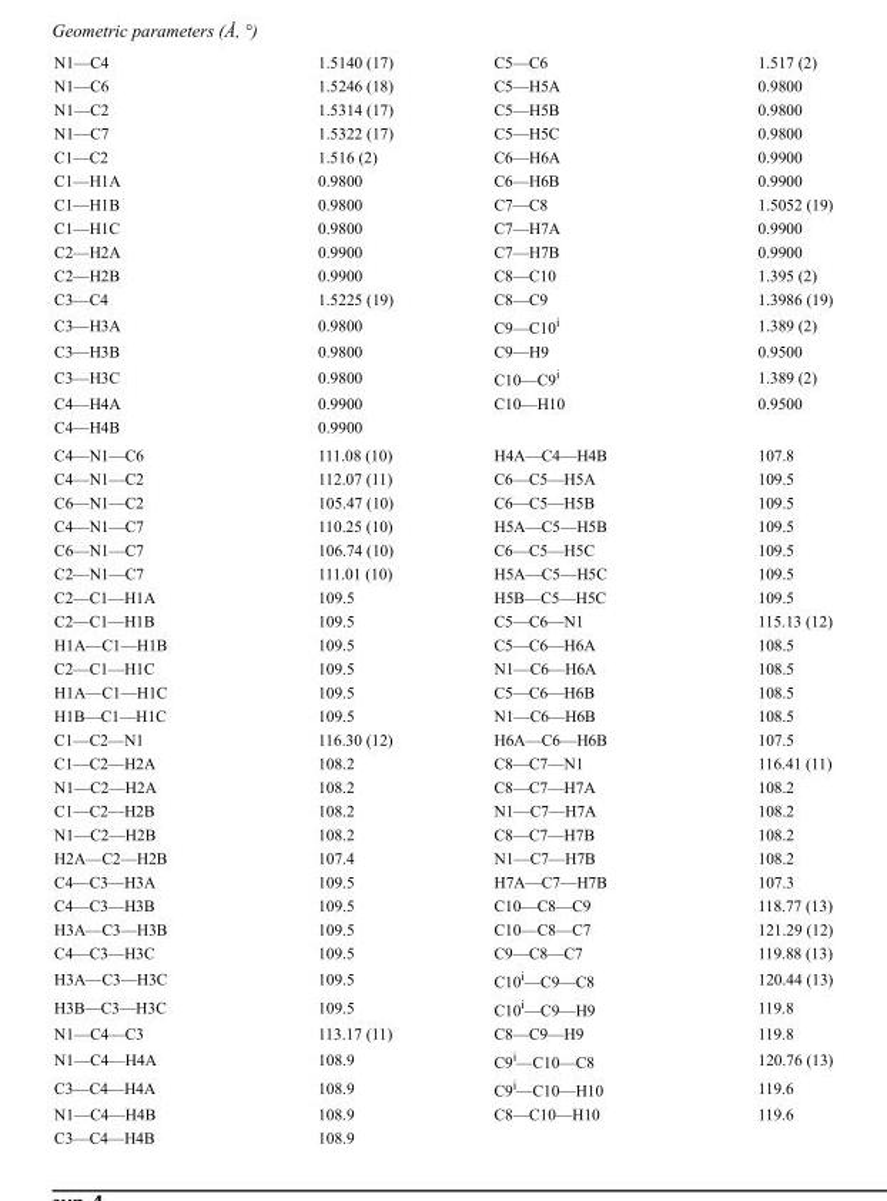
<table><tbody><tr><td>N1—C4</td><td>1.5140 (17)</td><td>C5—C6</td><td>1.517 (2)</td></tr><tr><td>N1—C6</td><td>1.5246 (18)</td><td>C5—H5A</td><td>0.9800</td></tr><tr><td>N1—C2</td><td>1.5314 (17)</td><td>C5—H5B</td><td>0.9800</td></tr><tr><td>N1—C7</td><td>1.5322 (17)</td><td>C5—H5C</td><td>0.9800</td></tr><tr><td>C1—C2</td><td>1.516 (2)</td><td>C6—H6A</td><td>0.9900</td></tr><tr><td>C1—H1A</td><td>0.9800</td><td>C6—H6B</td><td>0.9900</td></tr><tr><td>C1—H1B</td><td>0.9800</td><td>C7—C8</td><td>1.5052 (19)</td></tr><tr><td>C1—H1C</td><td>0.9800</td><td>C7—H7A</td><td>0.9900</td></tr><tr><td>C2—H2A</td><td>0.9900</td><td>C7—H7B</td><td>0.9900</td></tr><tr><td>C2—H2B</td><td>0.9900</td><td>C8—C10</td><td>1.395 (2)</td></tr><tr><td>C3—C4</td><td>1.5225 (19)</td><td>C8—C9</td><td>1.3986 (19)</td></tr><tr><td>C3—H3A</td><td>0.9800</td><td>C9—C10<sup>i</sup></td><td>1.389 (2)</td></tr><tr><td>C3—H3B</td><td>0.9800</td><td>C9—H9</td><td>0.9500</td></tr><tr><td>C3—H3C</td><td>0.9800</td><td>C10—C9<sup>i</sup></td><td>1.389 (2)</td></tr><tr><td>C4—H4A</td><td>0.9900</td><td>C10—H10</td><td>0.9500</td></tr><tr><td>C4—H4B</td><td>0.9900</td><td></td><td></td></tr><tr><td>C4—N1—C6</td><td>111.08 (10)</td><td>H4A—C4—H4B</td><td>107.8</td></tr><tr><td>C4—N1—C2</td><td>112.07 (11)</td><td>C6—C5—H5A</td><td>109.5</td></tr><tr><td>C6—N1—C2</td><td>105.47 (10)</td><td>C6—C5—H5B</td><td>109.5</td></tr><tr><td>C4—N1—C7</td><td>110.25 (10)</td><td>H5A—C5—H5B</td><td>109.5</td></tr><tr><td>C6—N1—C7</td><td>106.74 (10)</td><td>C6—C5—H5C</td><td>109.5</td></tr><tr><td>C2—N1—C7</td><td>111.01 (10)</td><td>H5A—C5—H5C</td><td>109.5</td></tr><tr><td>C2—C1—H1A</td><td>109.5</td><td>H5B—C5—H5C</td><td>109.5</td></tr><tr><td>C2—C1—H1B</td><td>109.5</td><td>C5—C6—N1</td><td>115.13 (12)</td></tr><tr><td>H1A—C1—H1B</td><td>109.5</td><td>C5—C6—H6A</td><td>108.5</td></tr><tr><td>C2—C1—H1C</td><td>109.5</td><td>N1—C6—H6A</td><td>108.5</td></tr><tr><td>H1A—C1—H1C</td><td>109.5</td><td>C5—C6—H6B</td><td>108.5</td></tr><tr><td>H1B—C1—H1C</td><td>109.5</td><td>N1—C6—H6B</td><td>108.5</td></tr><tr><td>C1—C2—N1</td><td>116.30 (12)</td><td>H6A—C6—H6B</td><td>107.5</td></tr><tr><td>C1—C2—H2A</td><td>108.2</td><td>C8—C7—N1</td><td>116.41 (11)</td></tr><tr><td>N1—C2—H2A</td><td>108.2</td><td>C8—C7—H7A</td><td>108.2</td></tr><tr><td>C1—C2—H2B</td><td>108.2</td><td>N1—C7—H7A</td><td>108.2</td></tr><tr><td>N1—C2—H2B</td><td>108.2</td><td>C8—C7—H7B</td><td>108.2</td></tr><tr><td>H2A—C2—H2B</td><td>107.4</td><td>N1—C7—H7B</td><td>108.2</td></tr><tr><td>C4—C3—H3A</td><td>109.5</td><td>H7A—C7—H7B</td><td>107.3</td></tr><tr><td>C4—C3—H3B</td><td>109.5</td><td>C10—C8—C9</td><td>118.77 (13)</td></tr><tr><td>H3A—C3—H3B</td><td>109.5</td><td>C10—C8—C7</td><td>121.29 (12)</td></tr><tr><td>C4—C3—H3C</td><td>109.5</td><td>C9—C8—C7</td><td>119.88 (13)</td></tr><tr><td>H3A—C3—H3C</td><td>109.5</td><td>C10<sup>i</sup>—C9—C8</td><td>120.44 (13)</td></tr><tr><td>H3B—C3—H3C</td><td>109.5</td><td>C10<sup>i</sup>—C9—H9</td><td>119.8</td></tr><tr><td>N1—C4—C3</td><td>113.17 (11)</td><td>C8—C9—H9</td><td>119.8</td></tr><tr><td>N1—C4—H4A</td><td>108.9</td><td>C9<sup>i</sup>—C10—C8</td><td>120.76 (13)</td></tr><tr><td>C3—C4—H4A</td><td>108.9</td><td>C9<sup>i</sup>—C10—H10</td><td>119.6</td></tr><tr><td>N1—C4—H4B</td><td>108.9</td><td>C8—C10—H10</td><td>119.6</td></tr><tr><td>C3—C4—H4B</td><td>108.9</td><td></td><td></td></tr></tbody></table>